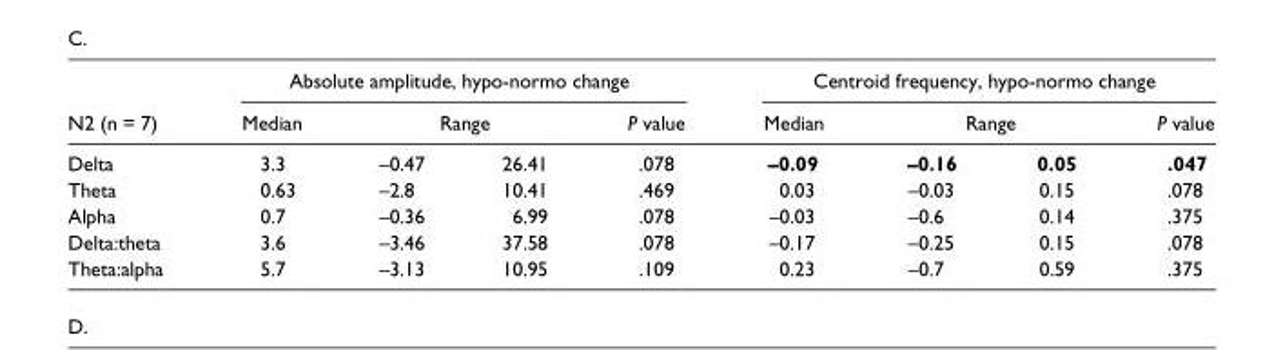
<table><thead><tr><td rowspan="3">N2 (n = 7) Delta</td><td colspan="4">Absolute amplitude, hypo-normo change</td><td colspan="4">Centroid frequency, hypo-normo change</td></tr><tr><td rowspan="2">Median 3.3</td><td colspan="2">Range</td><td rowspan="2">P value .078</td><td rowspan="2">Median –0.09</td><td colspan="2">Range</td><td rowspan="2">P value .047</td></tr><tr><td>–0.47</td><td>26.41</td><td>–0.16</td><td>0.05</td></tr></thead><tbody><tr><td>Theta</td><td>0.63</td><td>–2.8</td><td>10.41</td><td>.469</td><td>0.03</td><td>–0.03</td><td>0.15</td><td>.078</td></tr><tr><td>Alpha</td><td>0.7</td><td>–0.36</td><td>6.99</td><td>.078</td><td>–0.03</td><td>–0.6</td><td>0.14</td><td>.375</td></tr><tr><td>Delta:theta</td><td>3.6</td><td>–3.46</td><td>37.58</td><td>.078</td><td>–0.17</td><td>–0.25</td><td>0.15</td><td>.078</td></tr><tr><td>Theta:alpha</td><td>5.7</td><td>–3.13</td><td>10.95</td><td>.109</td><td>0.23</td><td>–0.7</td><td>0.59</td><td>.375</td></tr></tbody></table>